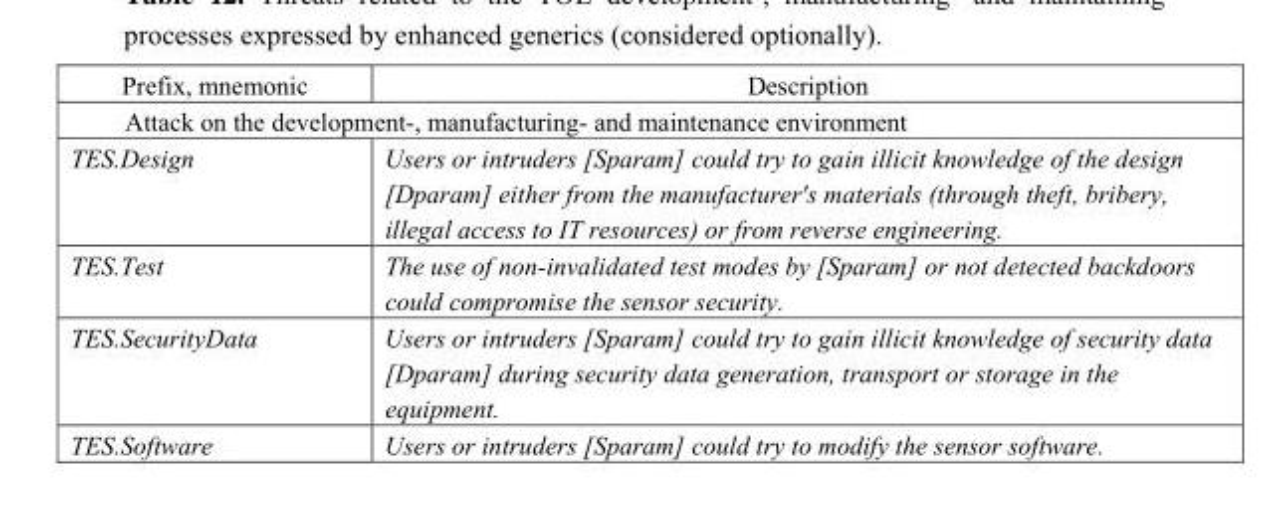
<table><thead><tr><td>Prefix, mnemonic</td><td>Description</td></tr></thead><tbody><tr><td colspan="2">Attack on the development-, manufacturing- and maintenance environment</td></tr><tr><td>TES.Design</td><td>Users or intruders [Sparam] could try to gain illicit knowledge of the design [Dparam] either from the manufacturer&#x27;s materials (through theft, bribery, illegal access to IT resources) or from reverse engineering.</td></tr><tr><td>TES.Test</td><td>The use of non-invalidated test modes by [Sparam] or not detected backdoors could compromise the sensor security.</td></tr><tr><td>TES.SecurityData</td><td>Users or intruders [Sparam] could try to gain illicit knowledge of security data [Dparam] during security data generation, transport or storage in the equipment.</td></tr><tr><td>TES.Software</td><td>Users or intruders [Sparam] could try to modify the sensor software.</td></tr></tbody></table>